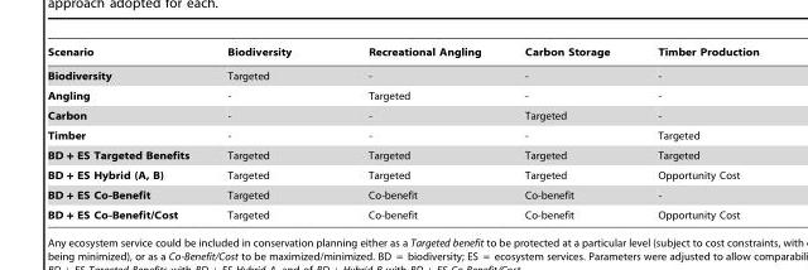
<table><thead><tr><td>Scenario</td><td>Biodiversity</td><td>Recreational Angling</td><td>Carbon Storage</td><td>Timber Production</td></tr></thead><tbody><tr><td>Biodiversity</td><td>Targeted</td><td>-</td><td>-</td><td>-</td></tr><tr><td>Angling</td><td>-</td><td>Targeted</td><td>-</td><td>-</td></tr><tr><td>Carbon</td><td>-</td><td>-</td><td>Targeted</td><td>-</td></tr><tr><td>Timber</td><td>-</td><td>-</td><td>-</td><td>Targeted</td></tr><tr><td>BD + ES Targeted Benefits</td><td>Targeted</td><td>Targeted</td><td>Targeted</td><td>Targeted</td></tr><tr><td>BD + ES Hybrid (A, B)</td><td>Targeted</td><td>Targeted</td><td>Targeted</td><td>Opportunity Cost</td></tr><tr><td>BD + ES Co-Benefit</td><td>Targeted</td><td>Co-benefit</td><td>Co-benefit</td><td>-</td></tr><tr><td>BD + ES Co-Benefit/Cost</td><td>Targeted</td><td>Co-benefit</td><td>Co-benefit</td><td>Opportunity Cost</td></tr></tbody></table>